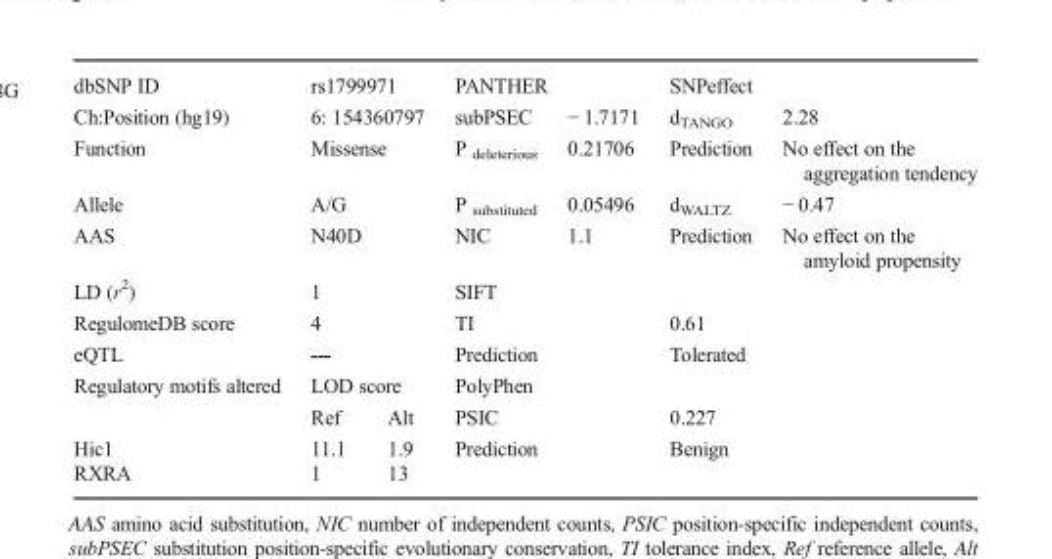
<table><tbody><tr><td>dbSNP ID</td><td colspan="2">rs1799971</td><td colspan="2">PANTHER</td><td colspan="2">SNPeffect</td></tr><tr><td>Ch:Position (hg19)</td><td colspan="2">6: 154360797</td><td>subPSEC</td><td>− 1.7171</td><td>d<sub>TANGO</sub></td><td>2.28</td></tr><tr><td>Function</td><td colspan="2">Missense</td><td>P <sub>deleterious</sub></td><td>0.21706</td><td>Prediction</td><td>No effect on the aggregation tendency</td></tr><tr><td>Allele</td><td colspan="2">A/G</td><td>P <sub>substituted</sub></td><td>0.05496</td><td>d<sub>WALTZ</sub></td><td>− 0.47</td></tr><tr><td>AAS</td><td colspan="2">N40D</td><td>NIC</td><td>1.1</td><td>Prediction</td><td>No effect on the amyloid propensity</td></tr><tr><td>LD (r<sup>2</sup>)</td><td colspan="2">1</td><td colspan="4">SIFT</td></tr><tr><td>RegulomeDB score</td><td colspan="2">4</td><td colspan="2">TI</td><td colspan="2">0.61</td></tr><tr><td>eQTL</td><td colspan="2">---</td><td colspan="2">Prediction</td><td colspan="2">Tolerated</td></tr><tr><td rowspan="2">Regulatory motifs altered</td><td colspan="2">LOD score</td><td colspan="2">PolyPhen</td><td colspan="2"></td></tr><tr><td>Ref</td><td>Alt</td><td colspan="2">PSIC</td><td colspan="2">0.227</td></tr><tr><td>Hic1</td><td>11.1</td><td>1.9</td><td rowspan="2" colspan="2">Prediction</td><td rowspan="2" colspan="2">Benign</td></tr><tr><td>RXRA</td><td>1</td><td>13</td></tr></tbody></table>